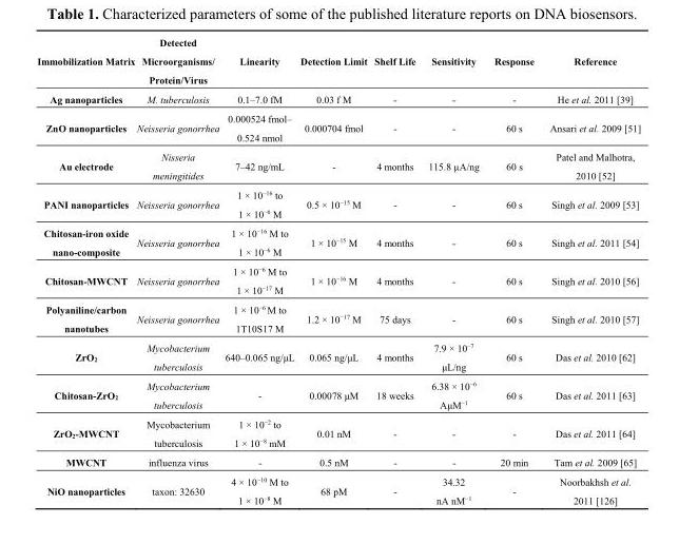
<table><thead><tr><td>Immobilization Matrix</td><td>Detected Microorganisms/ Protein/Virus</td><td>Linearity</td><td>Detection Limit</td><td>Shelf Life</td><td>Sensitivity</td><td>Response</td><td>Reference</td></tr></thead><tbody><tr><td>Ag nanoparticles</td><td>M. tuberculosis</td><td>0.1–7.0 fM</td><td>0.03 f M</td><td>-</td><td>-</td><td>-</td><td>He et al. 2011 [39]</td></tr><tr><td>ZnO nanoparticles</td><td>Neisseria gonorrhea</td><td>0.000524 fmol– 0.524 nmol</td><td>0.000704 fmol</td><td>-</td><td>-</td><td>60 s</td><td>Ansari et al. 2009 [51]</td></tr><tr><td>Au electrode</td><td>Nisseria meningitides</td><td>7–42 ng/mL</td><td>-</td><td>4 months</td><td>115.8 µA/ng</td><td>60 s</td><td>Patel and Malhotra, 2010 [52]</td></tr><tr><td>PANI nanoparticles</td><td>Neisseria gonorrhea</td><td>1 × 10<sup>−16</sup> to 1 × 10<sup>−6</sup> M</td><td>0.5 × 10<sup>−15</sup> M</td><td>-</td><td>-</td><td>60 s</td><td>Singh et al. 2009 [53]</td></tr><tr><td>Chitosan-iron oxide nano-composite</td><td>Neisseria gonorrhea</td><td>1 × 10<sup>−16</sup> M to 1 × 10<sup>−6</sup> M</td><td>1 × 10<sup>−15</sup> M</td><td>4 months</td><td>-</td><td>60 s</td><td>Singh et al. 2011 [54]</td></tr><tr><td>Chitosan-MWCNT</td><td>Neisseria gonorrhea</td><td>1 × 10<sup>−6</sup> M to 1 × 10<sup>−17</sup> M</td><td>1 × 10<sup>−16</sup> M</td><td>4 months</td><td>-</td><td>60 s</td><td>Singh et al. 2010 [56]</td></tr><tr><td>Polyaniline/carbon nanotubes</td><td>Neisseria gonorrhea</td><td>1 × 10<sup>−6</sup> M to 1T10S17 M</td><td>1.2 × 10<sup>−17</sup> M</td><td>75 days</td><td>-</td><td>60 s</td><td>Singh et al. 2010 [57]</td></tr><tr><td>ZrO<sub>2</sub></td><td>Mycobacterium tuberculosis</td><td>640–0.065 ng/μL</td><td>0.065 ng/μL</td><td>4 months</td><td>7.9 × 10<sup>−7</sup> μL/ng</td><td>60 s</td><td>Das et al. 2010 [62]</td></tr><tr><td>Chitosan-ZrO<sub>2</sub></td><td>Mycobacterium tuberculosis</td><td>-</td><td>0.00078 μM</td><td>18 weeks</td><td>6.38 × 10<sup>−6</sup> AμM<sup>−1</sup></td><td>60 s</td><td>Das et al. 2011 [63]</td></tr><tr><td>ZrO<sub>2</sub>-MWCNT</td><td>Mycobacterium tuberculosis</td><td>1 × 10<sup>−2</sup> to 1 × 10<sup>−8</sup> mM</td><td>0.01 nM</td><td>-</td><td>-</td><td>-</td><td>Das et al. 2011 [64]</td></tr><tr><td>MWCNT</td><td>influenza virus</td><td>-</td><td>0.5 nM</td><td>-</td><td>-</td><td>20 min</td><td>Tam et al. 2009 [65]</td></tr><tr><td>NiO nanoparticles</td><td>taxon: 32630</td><td>4 × 10<sup>−10</sup> M to 1 × 10<sup>−8</sup> M</td><td>68 pM</td><td>-</td><td>34.32 nA nM<sup>−1</sup></td><td>-</td><td>Noorbakhsh et al. 2011 [126]</td></tr></tbody></table>